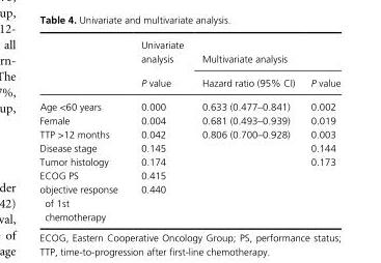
<table><thead><tr><td rowspan="2"></td><td rowspan="2">Univariate analysis P value</td><td colspan="2">Multivariate analysis</td></tr><tr><td>Hazard ratio (95% CI)</td><td>P value</td></tr></thead><tbody><tr><td>Age &lt;60 years</td><td>0.000</td><td>0.633 (0.477–0.841)</td><td>0.002</td></tr><tr><td>Female</td><td>0.004</td><td>0.681 (0.493–0.939)</td><td>0.019</td></tr><tr><td>TTP &gt;12 months</td><td>0.042</td><td>0.806 (0.700–0.928)</td><td>0.003</td></tr><tr><td>Disease stage</td><td>0.145</td><td></td><td>0.144</td></tr><tr><td>Tumor histology</td><td>0.174</td><td></td><td>0.173</td></tr><tr><td>ECOG PS</td><td>0.415</td><td></td><td></td></tr><tr><td>objective response of 1st chemotherapy</td><td>0.440</td><td></td><td></td></tr></tbody></table>